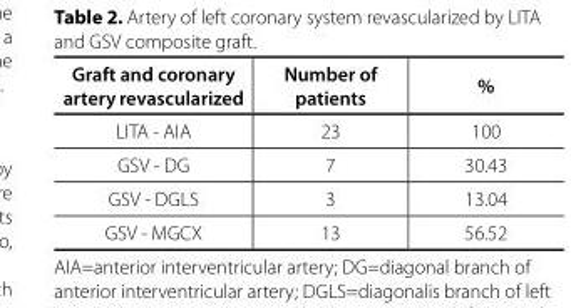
<table><thead><tr><td>Graft and coronary artery revascularized</td><td>Number of patients</td><td>%</td></tr></thead><tbody><tr><td>LITA - AIA</td><td>23</td><td>100</td></tr><tr><td>GSV - DG</td><td>7</td><td>30.43</td></tr><tr><td>GSV - DGLS</td><td>3</td><td>13.04</td></tr><tr><td>GSV - MGCX</td><td>13</td><td>56.52</td></tr></tbody></table>